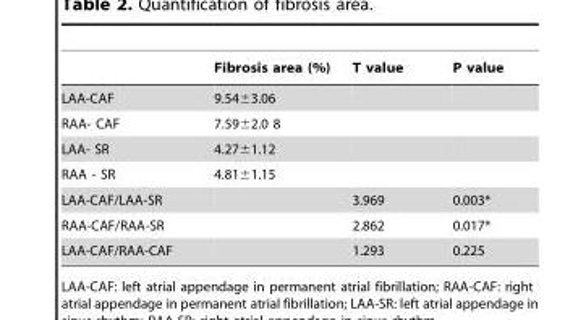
<table><thead><tr><td></td><td>Fibrosis area (%)</td><td>T value</td><td>P value</td></tr></thead><tbody><tr><td>LAA-CAF</td><td>9.54±3.06</td><td></td><td></td></tr><tr><td>RAA- CAF</td><td>7.59±2.0 8</td><td></td><td></td></tr><tr><td>LAA- SR</td><td>4.27±1.12</td><td></td><td></td></tr><tr><td>RAA - SR</td><td>4.81±1.15</td><td></td><td></td></tr><tr><td>LAA-CAF/LAA-SR</td><td></td><td>3.969</td><td>0.003*</td></tr><tr><td>RAA-CAF/RAA-SR</td><td></td><td>2.862</td><td>0.017*</td></tr><tr><td>LAA-CAF/RAA-CAF</td><td></td><td>1.293</td><td>0.225</td></tr></tbody></table>